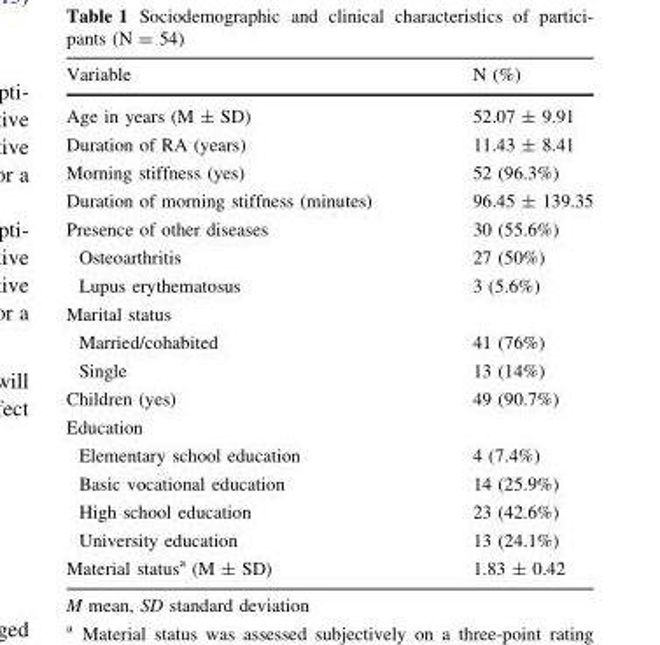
<table><thead><tr><td>Variable</td><td>N (%)</td></tr></thead><tbody><tr><td>Age in years (M ± SD)</td><td>52.07 ± 9.91</td></tr><tr><td>Duration of RA (years)</td><td>11.43 ± 8.41</td></tr><tr><td>Morning stiffness (yes)</td><td>52 (96.3%)</td></tr><tr><td>Duration of morning stiffness (minutes)</td><td>96.45 ± 139.35</td></tr><tr><td>Presence of other diseases</td><td>30 (55.6%)</td></tr><tr><td>Osteoarthritis</td><td>27 (50%)</td></tr><tr><td>Lupus erythematosus</td><td>3 (5.6%)</td></tr><tr><td colspan="2">Marital status</td></tr><tr><td>Married/cohabited</td><td>41 (76%)</td></tr><tr><td>Single</td><td>13 (14%)</td></tr><tr><td>Children (yes)</td><td>49 (90.7%)</td></tr><tr><td colspan="2">Education</td></tr><tr><td>Elementary school education</td><td>4 (7.4%)</td></tr><tr><td>Basic vocational education</td><td>14 (25.9%)</td></tr><tr><td>High school education</td><td>23 (42.6%)</td></tr><tr><td>University education</td><td>13 (24.1%)</td></tr><tr><td>Material status<sup>a</sup> (M ± SD)</td><td>1.83 ± 0.42</td></tr></tbody></table>